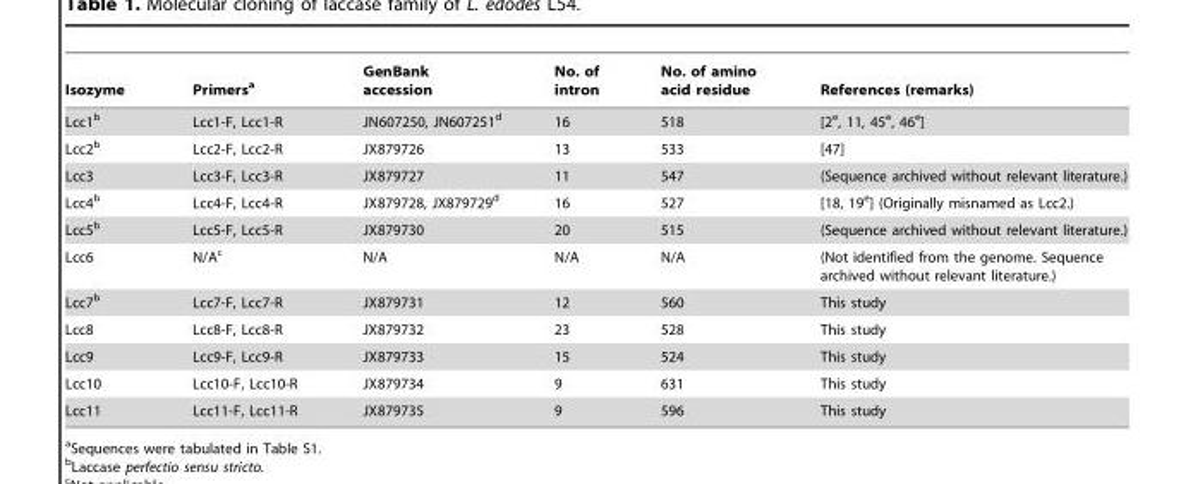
<table><thead><tr><td>Isozyme</td><td>Primers<sup>a</sup></td><td>GenBank accession</td><td>No. of intron</td><td>No. of amino acid residue</td><td>References (remarks)</td></tr></thead><tbody><tr><td>Lcc1<sup>b</sup></td><td>Lcc1-F, Lcc1-R</td><td>JN607250, JN607251<sup>d</sup></td><td>16</td><td>518</td><td>[2<sup>e</sup>, 11, 45<sup>e</sup>, 46<sup>e</sup>]</td></tr><tr><td>Lcc2<sup>b</sup></td><td>Lcc2-F, Lcc2-R</td><td>JX879726</td><td>13</td><td>533</td><td>[47]</td></tr><tr><td>Lcc3</td><td>Lcc3-F, Lcc3-R</td><td>JX879727</td><td>11</td><td>547</td><td>(Sequence archived without relevant literature.)</td></tr><tr><td>Lcc4<sup>b</sup></td><td>Lcc4-F, Lcc4-R</td><td>JX879728, JX879729<sup>d</sup></td><td>16</td><td>527</td><td>[18, 19<sup>e</sup>] (Originally misnamed as Lcc2.)</td></tr><tr><td>Lcc5<sup>b</sup></td><td>Lcc5-F, Lcc5-R</td><td>JX879730</td><td>20</td><td>515</td><td>(Sequence archived without relevant literature.)</td></tr><tr><td>Lcc6</td><td>N/A<sup>c</sup></td><td>N/A</td><td>N/A</td><td>N/A</td><td>(Not identified from the genome. Sequence archived without relevant literature.)</td></tr><tr><td>Lcc7<sup>b</sup></td><td>Lcc7-F, Lcc7-R</td><td>JX879731</td><td>12</td><td>560</td><td>This study</td></tr><tr><td>Lcc8</td><td>Lcc8-F, Lcc8-R</td><td>JX879732</td><td>23</td><td>528</td><td>This study</td></tr><tr><td>Lcc9</td><td>Lcc9-F, Lcc9-R</td><td>JX879733</td><td>15</td><td>524</td><td>This study</td></tr><tr><td>Lcc10</td><td>Lcc10-F, Lcc10-R</td><td>JX879734</td><td>9</td><td>631</td><td>This study</td></tr><tr><td>Lcc11</td><td>Lcc11-F, Lcc11-R</td><td>JX879735</td><td>9</td><td>596</td><td>This study</td></tr></tbody></table>